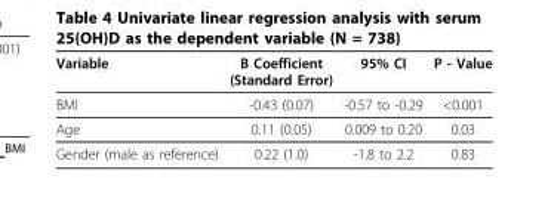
<table><thead><tr><td>Variable</td><td>B Coefficient (Standard Error)</td><td>95% CI</td><td>P - Value</td></tr></thead><tbody><tr><td>BMI</td><td>-0.43 (0.07)</td><td>-0.57 to -0.29</td><td>&lt;0.001</td></tr><tr><td>Age</td><td>0.11 (0.05)</td><td>0.009 to 0.20</td><td>0.03</td></tr><tr><td>Gender (male as reference)</td><td>0.22 (1.0)</td><td>-1.8 to 2.2</td><td>0.83</td></tr></tbody></table>